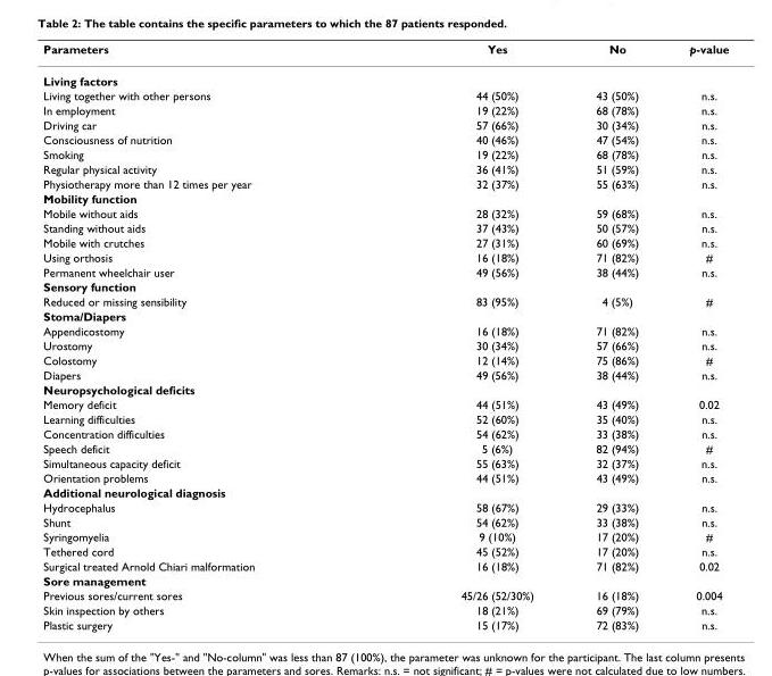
<table><thead><tr><td>Parameters</td><td>Yes</td><td>No</td><td>p-value</td></tr></thead><tbody><tr><td colspan="4">Living factors</td></tr><tr><td>Living together with other persons</td><td>44 (50%)</td><td>43 (50%)</td><td>n.s.</td></tr><tr><td>In employment</td><td>19 (22%)</td><td>68 (78%)</td><td>n.s.</td></tr><tr><td>Driving car</td><td>57 (66%)</td><td>30 (34%)</td><td>n.s.</td></tr><tr><td>Consciousness of nutrition</td><td>40 (46%)</td><td>47 (54%)</td><td>n.s.</td></tr><tr><td>Smoking</td><td>19 (22%)</td><td>68 (78%)</td><td>n.s.</td></tr><tr><td>Regular physical activity</td><td>36 (41%)</td><td>51 (59%)</td><td>n.s.</td></tr><tr><td>Physiotherapy more than 12 times per year</td><td>32 (37%)</td><td>55 (63%)</td><td>n.s.</td></tr><tr><td colspan="4">Mobility function</td></tr><tr><td>Mobile without aids</td><td>28 (32%)</td><td>59 (68%)</td><td>n.s.</td></tr><tr><td>Standing without aids</td><td>37 (43%)</td><td>50 (57%)</td><td>n.s.</td></tr><tr><td>Mobile with crutches</td><td>27 (31%)</td><td>60 (69%)</td><td>n.s.</td></tr><tr><td>Using orthosis</td><td>16 (18%)</td><td>71 (82%)</td><td>#</td></tr><tr><td>Permanent wheelchair user</td><td>49 (56%)</td><td>38 (44%)</td><td>n.s.</td></tr><tr><td colspan="4">Sensory function</td></tr><tr><td>Reduced or missing sensibility</td><td>83 (95%)</td><td>4 (5%)</td><td>#</td></tr><tr><td colspan="4">Stoma/Diapers</td></tr><tr><td>Appendicostomy</td><td>16 (18%)</td><td>71 (82%)</td><td>n.s.</td></tr><tr><td>Urostomy</td><td>30 (34%)</td><td>57 (66%)</td><td>n.s.</td></tr><tr><td>Colostomy</td><td>12 (14%)</td><td>75 (86%)</td><td>#</td></tr><tr><td>Diapers</td><td>49 (56%)</td><td>38 (44%)</td><td>n.s.</td></tr><tr><td colspan="4">Neuropsychological deficits</td></tr><tr><td>Memory deficit</td><td>44 (51%)</td><td>43 (49%)</td><td>0.02</td></tr><tr><td>Learning difficulties</td><td>52 (60%)</td><td>35 (40%)</td><td>n.s.</td></tr><tr><td>Concentration difficulties</td><td>54 (62%)</td><td>33 (38%)</td><td>n.s.</td></tr><tr><td>Speech deficit</td><td>5 (6%)</td><td>82 (94%)</td><td>#</td></tr><tr><td>Simultaneous capacity deficit</td><td>55 (63%)</td><td>32 (37%)</td><td>n.s.</td></tr><tr><td>Orientation problems</td><td>44 (51%)</td><td>43 (49%)</td><td>n.s.</td></tr><tr><td colspan="4">Additional neurological diagnosis</td></tr><tr><td>Hydrocephalus</td><td>58 (67%)</td><td>29 (33%)</td><td>n.s.</td></tr><tr><td>Shunt</td><td>54 (62%)</td><td>33 (38%)</td><td>n.s.</td></tr><tr><td>Syringomyelia</td><td>9 (10%)</td><td>17 (20%)</td><td>#</td></tr><tr><td>Tethered cord</td><td>45 (52%)</td><td>17 (20%)</td><td>n.s.</td></tr><tr><td>Surgical treated Arnold Chiari malformation</td><td>16 (18%)</td><td>71 (82%)</td><td>0.02</td></tr><tr><td colspan="4">Sore management</td></tr><tr><td>Previous sores/current sores</td><td>45/26 (52/30%)</td><td>16 (18%)</td><td>0.004</td></tr><tr><td>Skin inspection by others</td><td>18 (21%)</td><td>69 (79%)</td><td>n.s.</td></tr><tr><td>Plastic surgery</td><td>15 (17%)</td><td>72 (83%)</td><td>n.s.</td></tr></tbody></table>